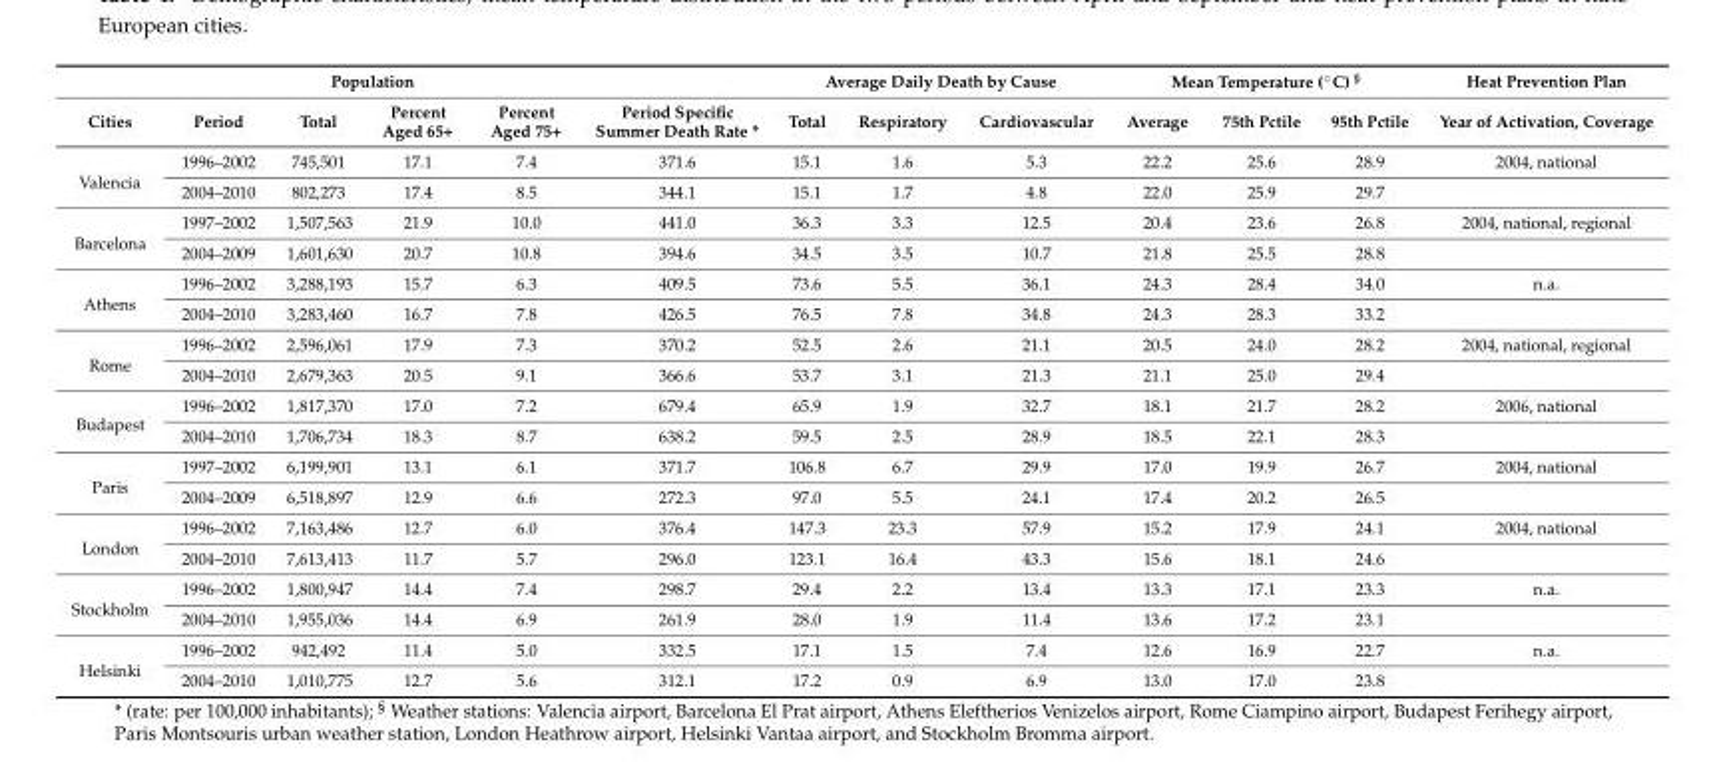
<table><thead><tr><td rowspan="2">Cities</td><td colspan="4">Population</td><td rowspan="2">Period Specific Summer Death Rate *</td><td colspan="3">Average Daily Death by Cause</td><td colspan="3">Mean Temperature (˝C) §</td><td rowspan="2">Heat Prevention Plan Year of Activation, Coverage</td></tr><tr><td>Period</td><td>Total</td><td>Percent Aged 65+</td><td>Percent Aged 75+</td><td>Total</td><td>Respiratory</td><td>Cardiovascular</td><td>Average</td><td>75th Pctile</td><td>95th Pctile</td></tr></thead><tbody><tr><td rowspan="2">Valencia</td><td>1996–2002</td><td>745,501</td><td>17.1</td><td>7.4</td><td>371.6</td><td>15.1</td><td>1.6</td><td>5.3</td><td>22.2</td><td>25.6</td><td>28.9</td><td>2004, national</td></tr><tr><td>2004–2010</td><td>802,273</td><td>17.4</td><td>8.5</td><td>344.1</td><td>15.1</td><td>1.7</td><td>4.8</td><td>22.0</td><td>25.9</td><td>29.7</td><td></td></tr><tr><td rowspan="2">Barcelona</td><td>1997–2002</td><td>1,507,563</td><td>21.9</td><td>10.0</td><td>441.0</td><td>36.3</td><td>3.3</td><td>12.5</td><td>20.4</td><td>23.6</td><td>26.8</td><td>2004, national, regional</td></tr><tr><td>2004–2009</td><td>1,601,630</td><td>20.7</td><td>10.8</td><td>394.6</td><td>34.5</td><td>3.5</td><td>10.7</td><td>21.8</td><td>25.5</td><td>28.8</td><td></td></tr><tr><td rowspan="2">Athens</td><td>1996–2002</td><td>3,288,193</td><td>15.7</td><td>6.3</td><td>409.5</td><td>73.6</td><td>5.5</td><td>36.1</td><td>24.3</td><td>28.4</td><td>34.0</td><td>n.a.</td></tr><tr><td>2004–2010</td><td>3,283,460</td><td>16.7</td><td>7.8</td><td>426.5</td><td>76.5</td><td>7.8</td><td>34.8</td><td>24.3</td><td>28.3</td><td>33.2</td><td></td></tr><tr><td rowspan="2">Rome</td><td>1996–2002</td><td>2,596,061</td><td>17.9</td><td>7.3</td><td>370.2</td><td>52.5</td><td>2.6</td><td>21.1</td><td>20.5</td><td>24.0</td><td>28.2</td><td>2004, national, regional</td></tr><tr><td>2004–2010</td><td>2,679,363</td><td>20.5</td><td>9.1</td><td>366.6</td><td>53.7</td><td>3.1</td><td>21.3</td><td>21.1</td><td>25.0</td><td>29.4</td><td></td></tr><tr><td rowspan="2">Budapest</td><td>1996–2002</td><td>1,817,370</td><td>17.0</td><td>7.2</td><td>679.4</td><td>65.9</td><td>1.9</td><td>32.7</td><td>18.1</td><td>21.7</td><td>28.2</td><td>2006, national</td></tr><tr><td>2004–2010</td><td>1,706,734</td><td>18.3</td><td>8.7</td><td>638.2</td><td>59.5</td><td>2.5</td><td>28.9</td><td>18.5</td><td>22.1</td><td>28.3</td><td></td></tr><tr><td rowspan="2">Paris</td><td>1997–2002</td><td>6,199,901</td><td>13.1</td><td>6.1</td><td>371.7</td><td>106.8</td><td>6.7</td><td>29.9</td><td>17.0</td><td>19.9</td><td>26.7</td><td>2004, national</td></tr><tr><td>2004–2009</td><td>6,518,897</td><td>12.9</td><td>6.6</td><td>272.3</td><td>97.0</td><td>5.5</td><td>24.1</td><td>17.4</td><td>20.2</td><td>26.5</td><td></td></tr><tr><td rowspan="2">London</td><td>1996–2002</td><td>7,163,486</td><td>12.7</td><td>6.0</td><td>376.4</td><td>147.3</td><td>23.3</td><td>57.9</td><td>15.2</td><td>17.9</td><td>24.1</td><td>2004, national</td></tr><tr><td>2004–2010</td><td>7,613,413</td><td>11.7</td><td>5.7</td><td>296.0</td><td>123.1</td><td>16.4</td><td>43.3</td><td>15.6</td><td>18.1</td><td>24.6</td><td></td></tr><tr><td rowspan="2">Stockholm</td><td>1996–2002</td><td>1,800,947</td><td>14.4</td><td>7.4</td><td>298.7</td><td>29.4</td><td>2.2</td><td>13.4</td><td>13.3</td><td>17.1</td><td>23.3</td><td>n.a.</td></tr><tr><td>2004–2010</td><td>1,955,036</td><td>14.4</td><td>6.9</td><td>261.9</td><td>28.0</td><td>1.9</td><td>11.4</td><td>13.6</td><td>17.2</td><td>23.1</td><td></td></tr><tr><td rowspan="2">Helsinki</td><td>1996–2002</td><td>942,492</td><td>11.4</td><td>5.0</td><td>332.5</td><td>17.1</td><td>1.5</td><td>7.4</td><td>12.6</td><td>16.9</td><td>22.7</td><td>n.a.</td></tr><tr><td>2004–2010</td><td>1,010,775</td><td>12.7</td><td>5.6</td><td>312.1</td><td>17.2</td><td>0.9</td><td>6.9</td><td>13.0</td><td>17.0</td><td>23.8</td><td></td></tr></tbody></table>